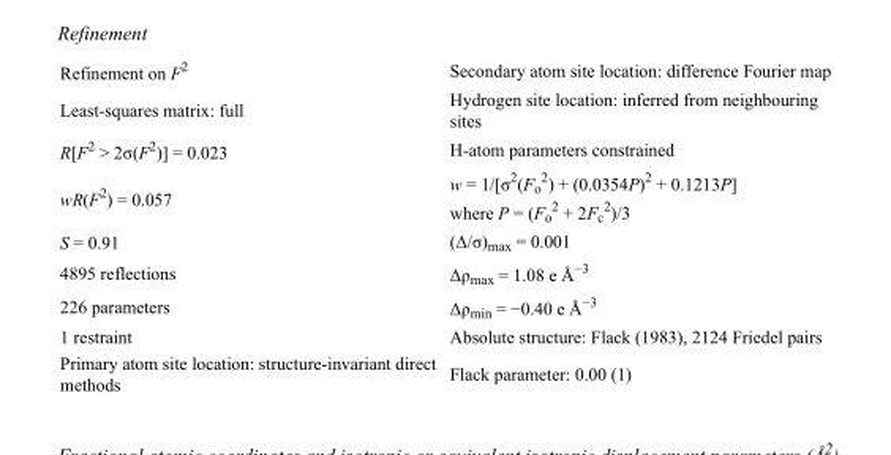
<table><tbody><tr><td>Refinement on F<sup>2</sup></td><td>Secondary atom site location: difference Fourier map</td></tr><tr><td>Least-squares matrix: full</td><td>Hydrogen site location: inferred from neighbouring sites</td></tr><tr><td>R[F<sup>2</sup> &gt; 2σ(F<sup>2</sup>)] = 0.023</td><td>H-atom parameters constrained</td></tr><tr><td>wR(F<sup>2</sup>) = 0.057</td><td>w = 1/[σ<sup>2</sup>(F<sub>o</sub> <sup>2</sup>) + (0.0354P)<sup>2</sup> + 0.1213P] where P = (F<sub>o</sub> <sup>2</sup> + 2F<sub>c</sub> <sup>2</sup>)/3</td></tr><tr><td>S = 0.91</td><td>(Δ/σ)<sub>max</sub> = 0.001</td></tr><tr><td>4895 reflections</td><td>Δρ<sub>max</sub> = 1.08 e Å<sup>−3</sup></td></tr><tr><td>226 parameters</td><td>Δρ<sub>min</sub> = −0.40 e Å<sup>−3</sup></td></tr><tr><td>1 restraint</td><td>Absolute structure: Flack (1983), 2124 Friedel pairs</td></tr><tr><td>Primary atom site location: structure-invariant direct methods</td><td>Flack parameter: 0.00 (1)</td></tr></tbody></table>